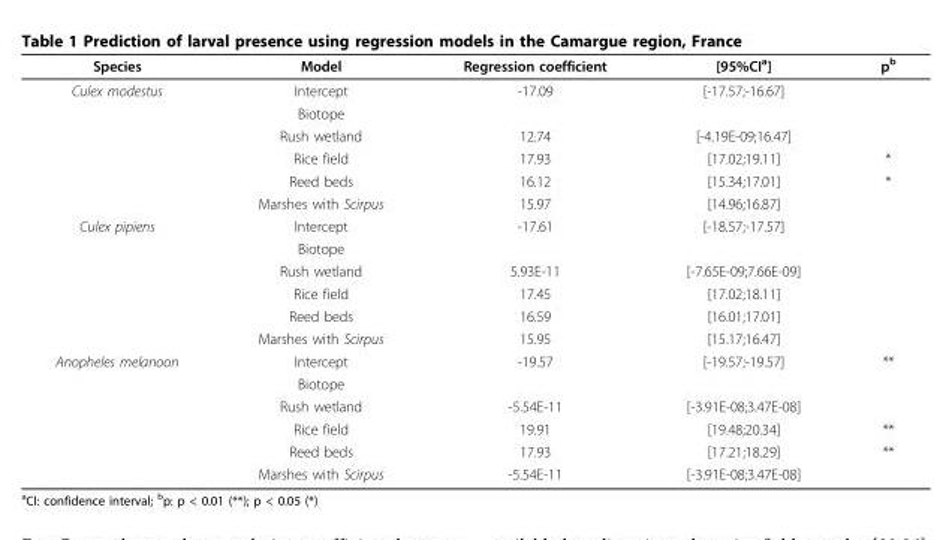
<table><thead><tr><td>Species</td><td>Model</td><td>Regression coefficient</td><td>[95%CI<sup>a</sup>]</td><td>p<sup>b</sup></td></tr></thead><tbody><tr><td rowspan="6">Culex modestus</td><td>Intercept</td><td>-17.09</td><td>[-17.57;-16.67]</td><td></td></tr><tr><td>Biotope</td><td></td><td></td><td></td></tr><tr><td>Rush wetland</td><td>12.74</td><td>[-4.19E-09;16.47]</td><td></td></tr><tr><td>Rice field</td><td>17.93</td><td>[17.02;19.11]</td><td>*</td></tr><tr><td>Reed beds</td><td>16.12</td><td>[15.34;17.01]</td><td>*</td></tr><tr><td>Marshes with Scirpus</td><td>15.97</td><td>[14.96;16.87]</td><td></td></tr><tr><td rowspan="6">Culex pipiens</td><td>Intercept</td><td>-17.61</td><td>[-18.57;-17.57]</td><td></td></tr><tr><td>Biotope</td><td></td><td></td><td></td></tr><tr><td>Rush wetland</td><td>5.93E-11</td><td>[-7.65E-09;7.66E-09]</td><td></td></tr><tr><td>Rice field</td><td>17.45</td><td>[17.02;18.11]</td><td></td></tr><tr><td>Reed beds</td><td>16.59</td><td>[16.01;17.01]</td><td></td></tr><tr><td>Marshes with Scirpus</td><td>15.95</td><td>[15.17;16.47]</td><td></td></tr><tr><td rowspan="6">Anopheles melanoon</td><td>Intercept</td><td>-19.57</td><td>[-19.57;-19.57]</td><td>**</td></tr><tr><td>Biotope</td><td></td><td></td><td></td></tr><tr><td>Rush wetland</td><td>-5.54E-11</td><td>[-3.91E-08;3.47E-08]</td><td></td></tr><tr><td>Rice field</td><td>19.91</td><td>[19.48;20.34]</td><td>**</td></tr><tr><td>Reed beds</td><td>17.93</td><td>[17.21;18.29]</td><td>**</td></tr><tr><td>Marshes with Scirpus</td><td>-5.54E-11</td><td>[-3.91E-08;3.47E-08]</td><td></td></tr></tbody></table>